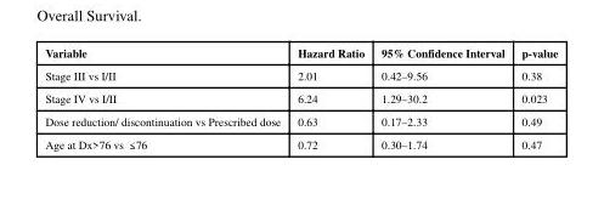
<table><thead><tr><td>Variable</td><td>Hazard Ratio</td><td>95% Confidence Interval</td><td>p-value</td></tr></thead><tbody><tr><td>Stage III vs I/II</td><td>2.01</td><td>0.42–9.56</td><td>0.38</td></tr><tr><td>Stage IV vs I/II</td><td>6.24</td><td>1.29–30.2</td><td>0.023</td></tr><tr><td>Dose reduction/ discontinuation vs Prescribed dose</td><td>0.63</td><td>0.17–2.33</td><td>0.49</td></tr><tr><td>Age at Dx&gt;76 vs ≤ 76</td><td>0.72</td><td>0.30–1.74</td><td>0.47</td></tr></tbody></table>